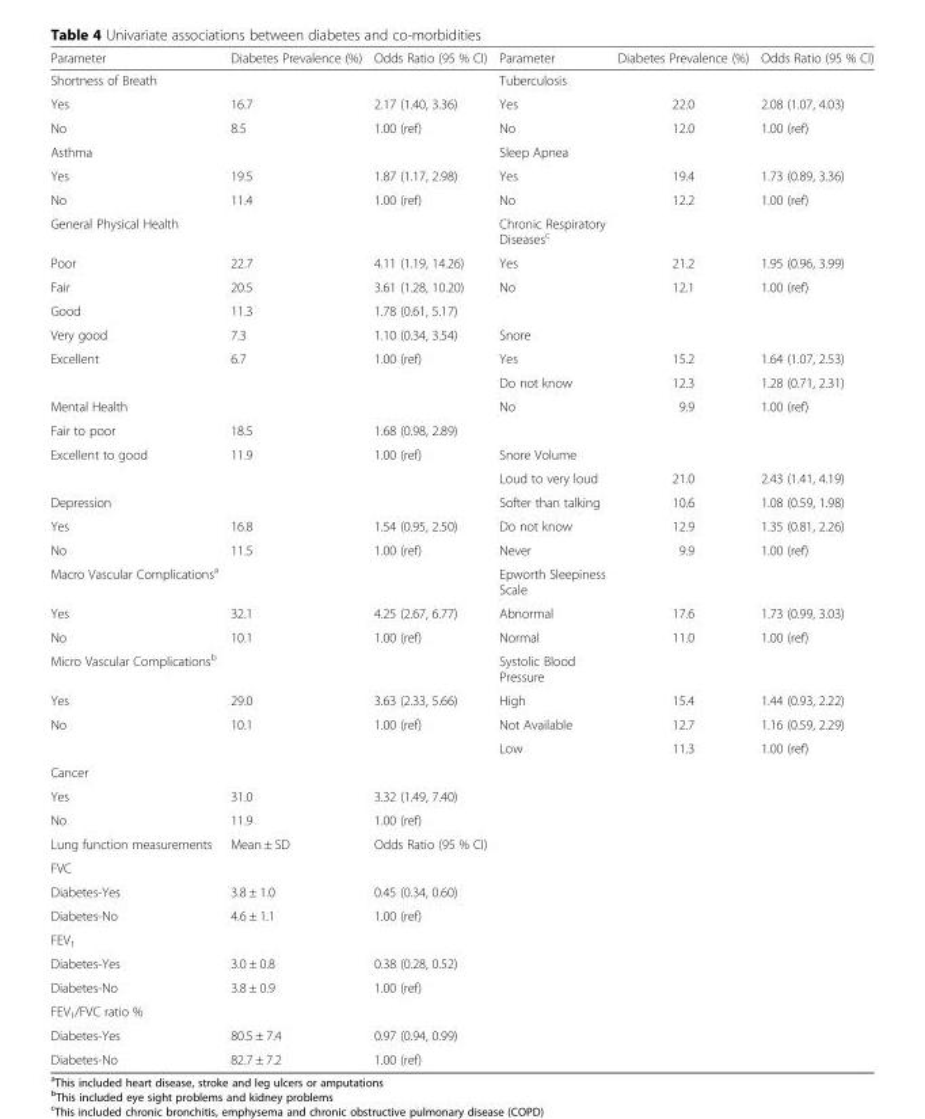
<table><thead><tr><td>Parameter</td><td>Diabetes Prevalence (%)</td><td>Odds Ratio (95 % CI)</td><td>Parameter</td><td>Diabetes Prevalence (%)</td><td>Odds Ratio (95 % CI)</td></tr></thead><tbody><tr><td>Shortness of Breath</td><td></td><td></td><td>Tuberculosis</td><td></td><td></td></tr><tr><td>Yes</td><td>16.7</td><td>2.17 (1.40, 3.36)</td><td>Yes</td><td>22.0</td><td>2.08 (1.07, 4.03)</td></tr><tr><td>No</td><td>8.5</td><td>1.00 (ref)</td><td>No</td><td>12.0</td><td>1.00 (ref)</td></tr><tr><td>Asthma</td><td></td><td></td><td>Sleep Apnea</td><td></td><td></td></tr><tr><td>Yes</td><td>19.5</td><td>1.87 (1.17, 2.98)</td><td>Yes</td><td>19.4</td><td>1.73 (0.89, 3.36)</td></tr><tr><td>No</td><td>11.4</td><td>1.00 (ref)</td><td>No</td><td>12.2</td><td>1.00 (ref)</td></tr><tr><td>General Physical Health</td><td></td><td></td><td>Chronic Respiratory Diseases<sup>c</sup></td><td></td><td></td></tr><tr><td>Poor</td><td>22.7</td><td>4.11 (1.19, 14.26)</td><td>Yes</td><td>21.2</td><td>1.95 (0.96, 3.99)</td></tr><tr><td>Fair</td><td>20.5</td><td>3.61 (1.28, 10.20)</td><td>No</td><td>12.1</td><td>1.00 (ref)</td></tr><tr><td>Good</td><td>11.3</td><td>1.78 (0.61, 5.17)</td><td></td><td></td><td></td></tr><tr><td>Very good</td><td>7.3</td><td>1.10 (0.34, 3.54)</td><td>Snore</td><td></td><td></td></tr><tr><td rowspan="2">Excellent</td><td>6.7</td><td>1.00 (ref)</td><td>Yes</td><td>15.2</td><td>1.64 (1.07, 2.53)</td></tr><tr><td></td><td></td><td>Do not know</td><td>12.3</td><td>1.28 (0.71, 2.31)</td></tr><tr><td>Mental Health</td><td></td><td></td><td>No</td><td>9.9</td><td>1.00 (ref)</td></tr><tr><td>Fair to poor</td><td>18.5</td><td>1.68 (0.98, 2.89)</td><td></td><td></td><td></td></tr><tr><td rowspan="2">Excellent to good</td><td>11.9</td><td>1.00 (ref)</td><td>Snore Volume</td><td></td><td></td></tr><tr><td></td><td></td><td>Loud to very loud</td><td>21.0</td><td>2.43 (1.41, 4.19)</td></tr><tr><td>Depression</td><td></td><td></td><td>Softer than talking</td><td>10.6</td><td>1.08 (0.59, 1.98)</td></tr><tr><td>Yes</td><td>16.8</td><td>1.54 (0.95, 2.50)</td><td>Do not know</td><td>12.9</td><td>1.35 (0.81, 2.26)</td></tr><tr><td>No</td><td>11.5</td><td>1.00 (ref)</td><td>Never</td><td>9.9</td><td>1.00 (ref)</td></tr><tr><td>Macro Vascular Complications<sup>a</sup></td><td></td><td></td><td>Epworth Sleepiness Scale</td><td></td><td></td></tr><tr><td>Yes</td><td>32.1</td><td>4.25 (2.67, 6.77)</td><td>Abnormal</td><td>17.6</td><td>1.73 (0.99, 3.03)</td></tr><tr><td>No</td><td>10.1</td><td>1.00 (ref)</td><td>Normal</td><td>11.0</td><td>1.00 (ref)</td></tr><tr><td>Micro Vascular Complications<sup>b</sup></td><td></td><td></td><td>Systolic Blood Pressure</td><td></td><td></td></tr><tr><td>Yes</td><td>29.0</td><td>3.63 (2.33, 5.66)</td><td>High</td><td>15.4</td><td>1.44 (0.93, 2.22)</td></tr><tr><td rowspan="2">No</td><td>10.1</td><td>1.00 (ref)</td><td>Not Available</td><td>12.7</td><td>1.16 (0.59, 2.29)</td></tr><tr><td></td><td></td><td>Low</td><td>11.3</td><td>1.00 (ref)</td></tr><tr><td colspan="6">Cancer</td></tr><tr><td>Yes</td><td>31.0</td><td>3.32 (1.49, 7.40)</td><td></td><td></td><td></td></tr><tr><td>No</td><td>11.9</td><td>1.00 (ref)</td><td></td><td></td><td></td></tr><tr><td>Lung function measurements</td><td>Mean ± SD</td><td>Odds Ratio (95 % CI)</td><td></td><td></td><td></td></tr><tr><td colspan="6">FVC</td></tr><tr><td>Diabetes-Yes</td><td>3.8 ± 1.0</td><td>0.45 (0.34, 0.60)</td><td></td><td></td><td></td></tr><tr><td>Diabetes-No</td><td>4.6 ± 1.1</td><td>1.00 (ref)</td><td></td><td></td><td></td></tr><tr><td colspan="6">FEV<sub>1</sub></td></tr><tr><td>Diabetes-Yes</td><td>3.0 ± 0.8</td><td>0.38 (0.28, 0.52)</td><td></td><td></td><td></td></tr><tr><td>Diabetes-No</td><td>3.8 ± 0.9</td><td>1.00 (ref)</td><td></td><td></td><td></td></tr><tr><td colspan="6">FEV<sub>1</sub>/FVC ratio %</td></tr><tr><td>Diabetes-Yes</td><td>80.5 ± 7.4</td><td>0.97 (0.94, 0.99)</td><td></td><td></td><td></td></tr><tr><td>Diabetes-No</td><td>82.7 ± 7.2</td><td>1.00 (ref)</td><td></td><td></td><td></td></tr></tbody></table>